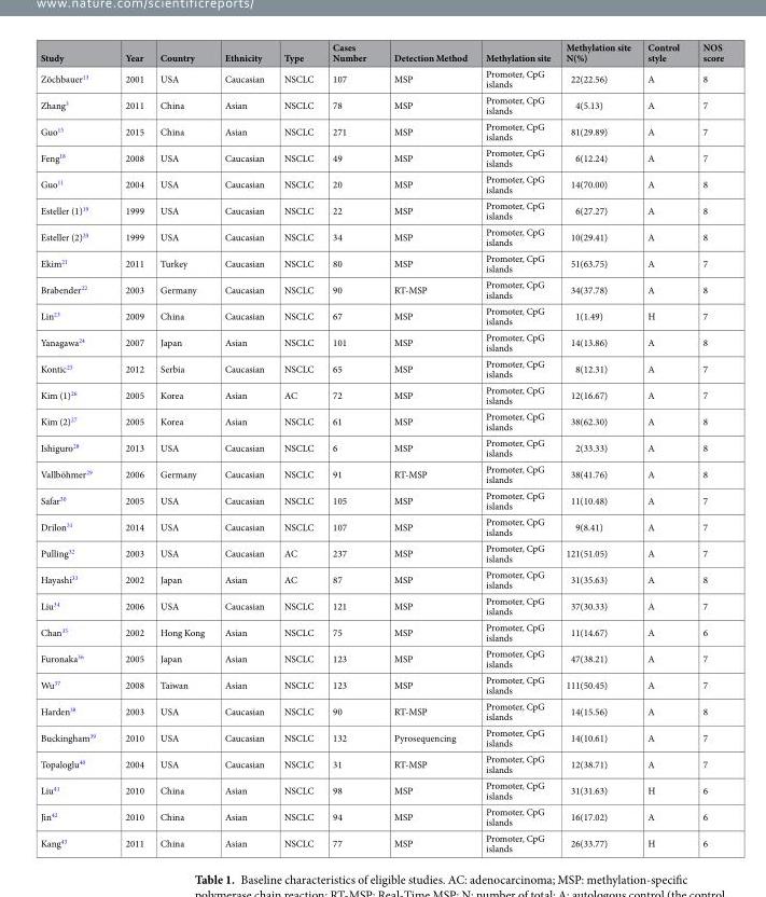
<table><thead><tr><td>Study</td><td>Year</td><td>Country</td><td>Ethnicity</td><td>Type</td><td>Cases Number</td><td>Detection Method</td><td>Methylation site</td><td>Methylation site N(%)</td><td>Control style</td><td>NOS score</td></tr></thead><tbody><tr><td>Zöchbauer<sup>13</sup></td><td>2001</td><td>USA</td><td>Caucasian</td><td>NSCLC</td><td>107</td><td>MSP</td><td>Promoter, CpG islands</td><td>22(22.56)</td><td>A</td><td>8</td></tr><tr><td>Zhang<sup>3</sup></td><td>2011</td><td>China</td><td>Asian</td><td>NSCLC</td><td>78</td><td>MSP</td><td>Promoter, CpG islands</td><td>4(5.13)</td><td>A</td><td>7</td></tr><tr><td>Guo<sup>15</sup></td><td>2015</td><td>China</td><td>Asian</td><td>NSCLC</td><td>271</td><td>MSP</td><td>Promoter, CpG islands</td><td>81(29.89)</td><td>A</td><td>7</td></tr><tr><td>Feng<sup>18</sup></td><td>2008</td><td>USA</td><td>Caucasian</td><td>NSCLC</td><td>49</td><td>MSP</td><td>Promoter, CpG islands</td><td>6(12.24)</td><td>A</td><td>7</td></tr><tr><td>Guo<sup>11</sup></td><td>2004</td><td>USA</td><td>Caucasian</td><td>NSCLC</td><td>20</td><td>MSP</td><td>Promoter, CpG islands</td><td>14(70.00)</td><td>A</td><td>8</td></tr><tr><td>Esteller (1)<sup>19</sup></td><td>1999</td><td>USA</td><td>Caucasian</td><td>NSCLC</td><td>22</td><td>MSP</td><td>Promoter, CpG islands</td><td>6(27.27)</td><td>A</td><td>8</td></tr><tr><td>Esteller (2)<sup>20</sup></td><td>1999</td><td>USA</td><td>Caucasian</td><td>NSCLC</td><td>34</td><td>MSP</td><td>Promoter, CpG islands</td><td>10(29.41)</td><td>A</td><td>8</td></tr><tr><td>Ekim<sup>21</sup></td><td>2011</td><td>Turkey</td><td>Caucasian</td><td>NSCLC</td><td>80</td><td>MSP</td><td>Promoter, CpG islands</td><td>51(63.75)</td><td>A</td><td>7</td></tr><tr><td>Brabender<sup>22</sup></td><td>2003</td><td>Germany</td><td>Caucasian</td><td>NSCLC</td><td>90</td><td>RT-MSP</td><td>Promoter, CpG islands</td><td>34(37.78)</td><td>A</td><td>8</td></tr><tr><td>Lin<sup>23</sup></td><td>2009</td><td>China</td><td>Caucasian</td><td>NSCLC</td><td>67</td><td>MSP</td><td>Promoter, CpG islands</td><td>1(1.49)</td><td>H</td><td>7</td></tr><tr><td>Yanagawa<sup>24</sup></td><td>2007</td><td>Japan</td><td>Asian</td><td>NSCLC</td><td>101</td><td>MSP</td><td>Promoter, CpG islands</td><td>14(13.86)</td><td>A</td><td>8</td></tr><tr><td>Kontic<sup>25</sup></td><td>2012</td><td>Serbia</td><td>Caucasian</td><td>NSCLC</td><td>65</td><td>MSP</td><td>Promoter, CpG islands</td><td>8(12.31)</td><td>A</td><td>7</td></tr><tr><td>Kim (1)<sup>26</sup></td><td>2005</td><td>Korea</td><td>Asian</td><td>AC</td><td>72</td><td>MSP</td><td>Promoter, CpG islands</td><td>12(16.67)</td><td>A</td><td>7</td></tr><tr><td>Kim (2)<sup>27</sup></td><td>2005</td><td>Korea</td><td>Asian</td><td>NSCLC</td><td>61</td><td>MSP</td><td>Promoter, CpG islands</td><td>38(62.30)</td><td>A</td><td>8</td></tr><tr><td>Ishiguro<sup>28</sup></td><td>2013</td><td>USA</td><td>Caucasian</td><td>NSCLC</td><td>6</td><td>MSP</td><td>Promoter, CpG islands</td><td>2(33.33)</td><td>A</td><td>8</td></tr><tr><td>Vallböhmer<sup>29</sup></td><td>2006</td><td>Germany</td><td>Caucasian</td><td>NSCLC</td><td>91</td><td>RT-MSP</td><td>Promoter, CpG islands</td><td>38(41.76)</td><td>A</td><td>8</td></tr><tr><td>Safar<sup>30</sup></td><td>2005</td><td>USA</td><td>Caucasian</td><td>NSCLC</td><td>105</td><td>MSP</td><td>Promoter, CpG islands</td><td>11(10.48)</td><td>A</td><td>7</td></tr><tr><td>Drilon<sup>31</sup></td><td>2014</td><td>USA</td><td>Caucasian</td><td>NSCLC</td><td>107</td><td>MSP</td><td>Promoter, CpG islands</td><td>9(8.41)</td><td>A</td><td>7</td></tr><tr><td>Pulling<sup>32</sup></td><td>2003</td><td>USA</td><td>Caucasian</td><td>AC</td><td>237</td><td>MSP</td><td>Promoter, CpG islands</td><td>121(51.05)</td><td>A</td><td>7</td></tr><tr><td>Hayashi<sup>33</sup></td><td>2002</td><td>Japan</td><td>Asian</td><td>AC</td><td>87</td><td>MSP</td><td>Promoter, CpG islands</td><td>31(35.63)</td><td>A</td><td>8</td></tr><tr><td>Liu<sup>34</sup></td><td>2006</td><td>USA</td><td>Caucasian</td><td>NSCLC</td><td>121</td><td>MSP</td><td>Promoter, CpG islands</td><td>37(30.33)</td><td>A</td><td>7</td></tr><tr><td>Chan<sup>35</sup></td><td>2002</td><td>Hong Kong</td><td>Asian</td><td>NSCLC</td><td>75</td><td>MSP</td><td>Promoter, CpG islands</td><td>11(14.67)</td><td>A</td><td>6</td></tr><tr><td>Furonaka<sup>36</sup></td><td>2005</td><td>Japan</td><td>Asian</td><td>NSCLC</td><td>123</td><td>MSP</td><td>Promoter, CpG islands</td><td>47(38.21)</td><td>A</td><td>7</td></tr><tr><td>Wu<sup>37</sup></td><td>2008</td><td>Taiwan</td><td>Asian</td><td>NSCLC</td><td>123</td><td>MSP</td><td>Promoter, CpG islands</td><td>111(50.45)</td><td>A</td><td>7</td></tr><tr><td>Harden<sup>38</sup></td><td>2003</td><td>USA</td><td>Caucasian</td><td>NSCLC</td><td>90</td><td>RT-MSP</td><td>Promoter, CpG islands</td><td>14(15.56)</td><td>A</td><td>8</td></tr><tr><td>Buckingham<sup>39</sup></td><td>2010</td><td>USA</td><td>Caucasian</td><td>NSCLC</td><td>132</td><td>Pyrosequencing</td><td>Promoter, CpG islands</td><td>14(10.61)</td><td>A</td><td>7</td></tr><tr><td>Topaloglu<sup>40</sup></td><td>2004</td><td>USA</td><td>Caucasian</td><td>NSCLC</td><td>31</td><td>RT-MSP</td><td>Promoter, CpG islands</td><td>12(38.71)</td><td>A</td><td>7</td></tr><tr><td>Liu<sup>41</sup></td><td>2010</td><td>China</td><td>Asian</td><td>NSCLC</td><td>98</td><td>MSP</td><td>Promoter, CpG islands</td><td>31(31.63)</td><td>H</td><td>6</td></tr><tr><td>Jin<sup>42</sup></td><td>2010</td><td>China</td><td>Asian</td><td>NSCLC</td><td>94</td><td>MSP</td><td>Promoter, CpG islands</td><td>16(17.02)</td><td>A</td><td>6</td></tr><tr><td>Kang<sup>43</sup></td><td>2011</td><td>China</td><td>Asian</td><td>NSCLC</td><td>77</td><td>MSP</td><td>Promoter, CpG islands</td><td>26(33.77)</td><td>H</td><td>6</td></tr></tbody></table>